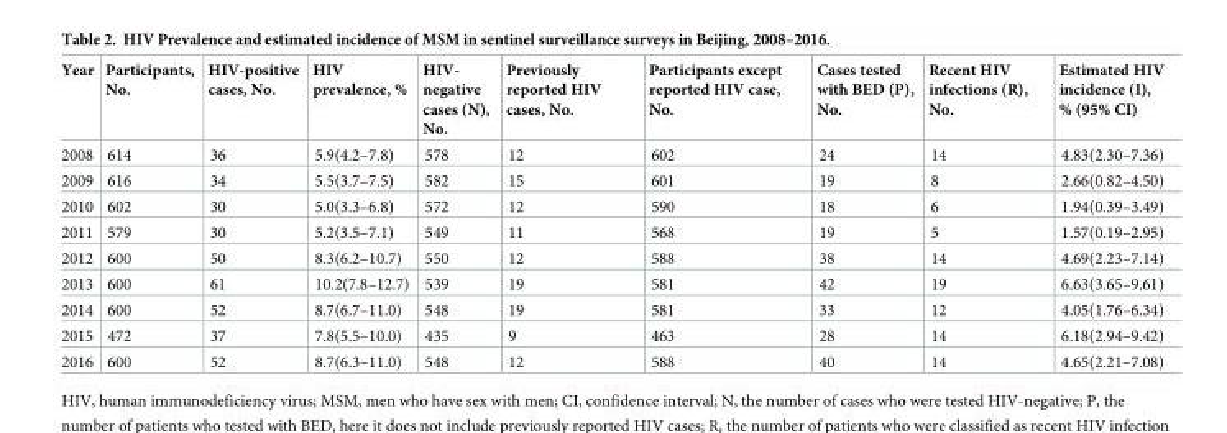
<table><thead><tr><td>Year</td><td>Participants, No.</td><td>HIV-positive cases, No.</td><td>HIV prevalence, %</td><td>HIV- negative cases (N), No.</td><td>Previously reported HIV cases, No.</td><td>Participants except reported HIV case, No.</td><td>Cases tested with BED (P), No.</td><td>Recent HIV infections (R), No.</td><td>Estimated HIV incidence (I), % (95% CI)</td></tr></thead><tbody><tr><td>2008</td><td>614</td><td>36</td><td>5.9(4.2–7.8)</td><td>578</td><td>12</td><td>602</td><td>24</td><td>14</td><td>4.83(2.30–7.36)</td></tr><tr><td>2009</td><td>616</td><td>34</td><td>5.5(3.7–7.5)</td><td>582</td><td>15</td><td>601</td><td>19</td><td>8</td><td>2.66(0.82–4.50)</td></tr><tr><td>2010</td><td>602</td><td>30</td><td>5.0(3.3–6.8)</td><td>572</td><td>12</td><td>590</td><td>18</td><td>6</td><td>1.94(0.39–3.49)</td></tr><tr><td>2011</td><td>579</td><td>30</td><td>5.2(3.5–7.1)</td><td>549</td><td>11</td><td>568</td><td>19</td><td>5</td><td>1.57(0.19–2.95)</td></tr><tr><td>2012</td><td>600</td><td>50</td><td>8.3(6.2–10.7)</td><td>550</td><td>12</td><td>588</td><td>38</td><td>14</td><td>4.69(2.23–7.14)</td></tr><tr><td>2013</td><td>600</td><td>61</td><td>10.2(7.8–12.7)</td><td>539</td><td>19</td><td>581</td><td>42</td><td>19</td><td>6.63(3.65–9.61)</td></tr><tr><td>2014</td><td>600</td><td>52</td><td>8.7(6.7–11.0)</td><td>548</td><td>19</td><td>581</td><td>33</td><td>12</td><td>4.05(1.76–6.34)</td></tr><tr><td>2015</td><td>472</td><td>37</td><td>7.8(5.5–10.0)</td><td>435</td><td>9</td><td>463</td><td>28</td><td>14</td><td>6.18(2.94–9.42)</td></tr><tr><td>2016</td><td>600</td><td>52</td><td>8.7(6.3–11.0)</td><td>548</td><td>12</td><td>588</td><td>40</td><td>14</td><td>4.65(2.21–7.08)</td></tr></tbody></table>